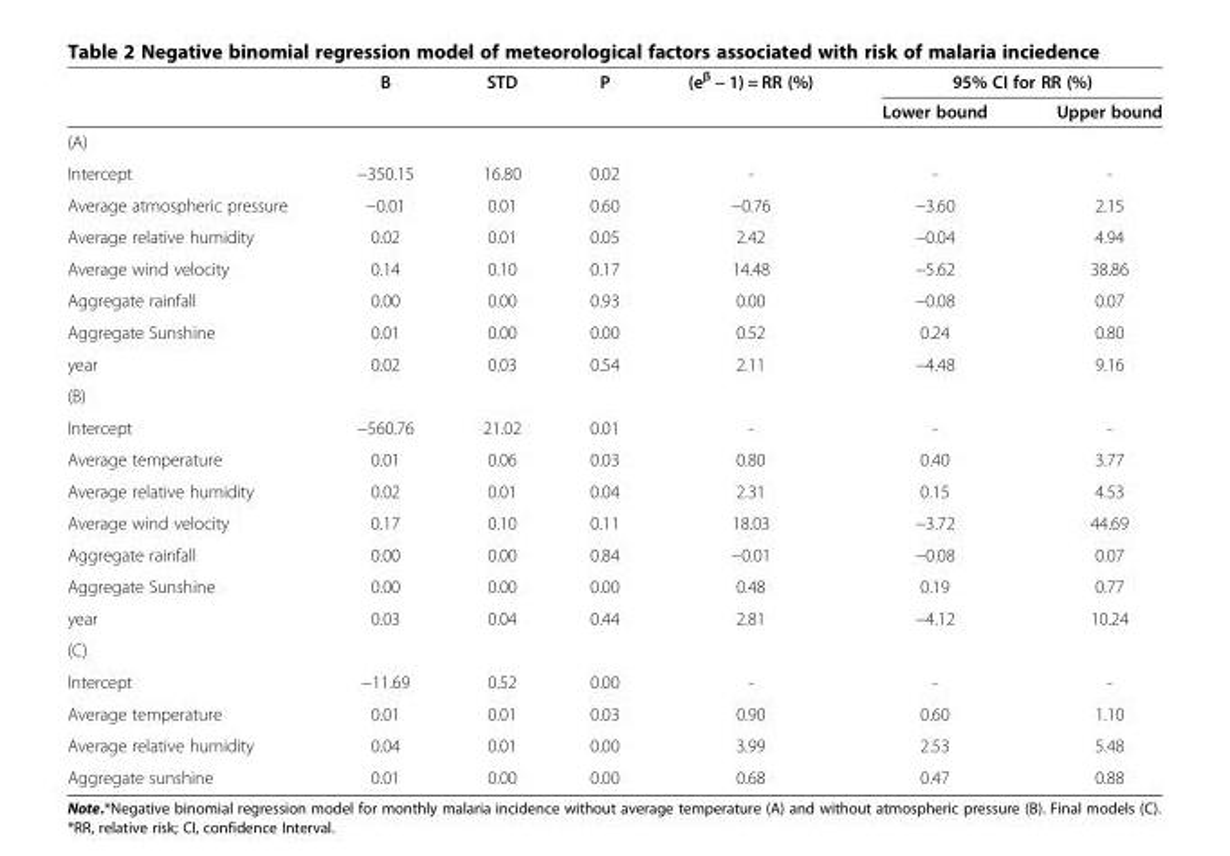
<table><thead><tr><td rowspan="2"></td><td rowspan="2">B</td><td rowspan="2">STD</td><td rowspan="2">P</td><td rowspan="2">(e<sup>β</sup> − 1) = RR (%)</td><td colspan="2">95% CI for RR (%)</td></tr><tr><td>Lower bound</td><td>Upper bound</td></tr></thead><tbody><tr><td colspan="7">(A)</td></tr><tr><td>Intercept</td><td>−350.15</td><td>16.80</td><td>0.02</td><td>-</td><td>-</td><td>-</td></tr><tr><td>Average atmospheric pressure</td><td>−0.01</td><td>0.01</td><td>0.60</td><td>−0.76</td><td>−3.60</td><td>2.15</td></tr><tr><td>Average relative humidity</td><td>0.02</td><td>0.01</td><td>0.05</td><td>2.42</td><td>−0.04</td><td>4.94</td></tr><tr><td>Average wind velocity</td><td>0.14</td><td>0.10</td><td>0.17</td><td>14.48</td><td>−5.62</td><td>38.86</td></tr><tr><td>Aggregate rainfall</td><td>0.00</td><td>0.00</td><td>0.93</td><td>0.00</td><td>−0.08</td><td>0.07</td></tr><tr><td>Aggregate Sunshine</td><td>0.01</td><td>0.00</td><td>0.00</td><td>0.52</td><td>0.24</td><td>0.80</td></tr><tr><td>year</td><td>0.02</td><td>0.03</td><td>0.54</td><td>2.11</td><td>−4.48</td><td>9.16</td></tr><tr><td colspan="7">(B)</td></tr><tr><td>Intercept</td><td>−560.76</td><td>21.02</td><td>0.01</td><td>-</td><td>-</td><td>-</td></tr><tr><td>Average temperature</td><td>0.01</td><td>0.06</td><td>0.03</td><td>0.80</td><td>0.40</td><td>3.77</td></tr><tr><td>Average relative humidity</td><td>0.02</td><td>0.01</td><td>0.04</td><td>2.31</td><td>0.15</td><td>4.53</td></tr><tr><td>Average wind velocity</td><td>0.17</td><td>0.10</td><td>0.11</td><td>18.03</td><td>−3.72</td><td>44.69</td></tr><tr><td>Aggregate rainfall</td><td>0.00</td><td>0.00</td><td>0.84</td><td>−0.01</td><td>−0.08</td><td>0.07</td></tr><tr><td>Aggregate Sunshine</td><td>0.00</td><td>0.00</td><td>0.00</td><td>0.48</td><td>0.19</td><td>0.77</td></tr><tr><td>year</td><td>0.03</td><td>0.04</td><td>0.44</td><td>2.81</td><td>−4.12</td><td>10.24</td></tr><tr><td colspan="7">(C)</td></tr><tr><td>Intercept</td><td>−11.69</td><td>0.52</td><td>0.00</td><td>-</td><td>-</td><td>-</td></tr><tr><td>Average temperature</td><td>0.01</td><td>0.01</td><td>0.03</td><td>0.90</td><td>0.60</td><td>1.10</td></tr><tr><td>Average relative humidity</td><td>0.04</td><td>0.01</td><td>0.00</td><td>3.99</td><td>2.53</td><td>5.48</td></tr><tr><td>Aggregate sunshine</td><td>0.01</td><td>0.00</td><td>0.00</td><td>0.68</td><td>0.47</td><td>0.88</td></tr></tbody></table>